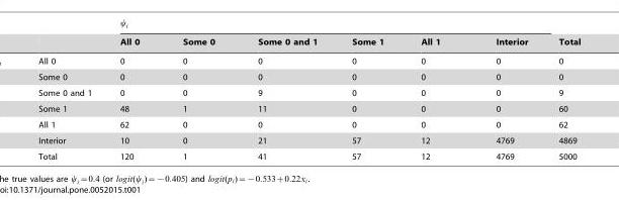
<table><thead><tr><td></td><td>All 0</td><td>Some 0</td><td>Some 0 and 1</td><td>Some 1</td><td>All 1</td><td>Interior</td><td>Total</td></tr></thead><tbody><tr><td>All 0</td><td>0</td><td>0</td><td>0</td><td>0</td><td>0</td><td>0</td><td>0</td></tr><tr><td>Some 0</td><td>0</td><td>0</td><td>0</td><td>0</td><td>0</td><td>0</td><td>0</td></tr><tr><td>Some 0 and 1</td><td>0</td><td>0</td><td>9</td><td>0</td><td>0</td><td>0</td><td>9</td></tr><tr><td>Some 1</td><td>48</td><td>1</td><td>11</td><td>0</td><td>0</td><td>0</td><td>60</td></tr><tr><td>All 1</td><td>62</td><td>0</td><td>0</td><td>0</td><td>0</td><td>0</td><td>62</td></tr><tr><td>Interior</td><td>10</td><td>0</td><td>21</td><td>57</td><td>12</td><td>4769</td><td>4869</td></tr><tr><td>Total</td><td>120</td><td>1</td><td>41</td><td>57</td><td>12</td><td>4769</td><td>5000</td></tr></tbody></table>